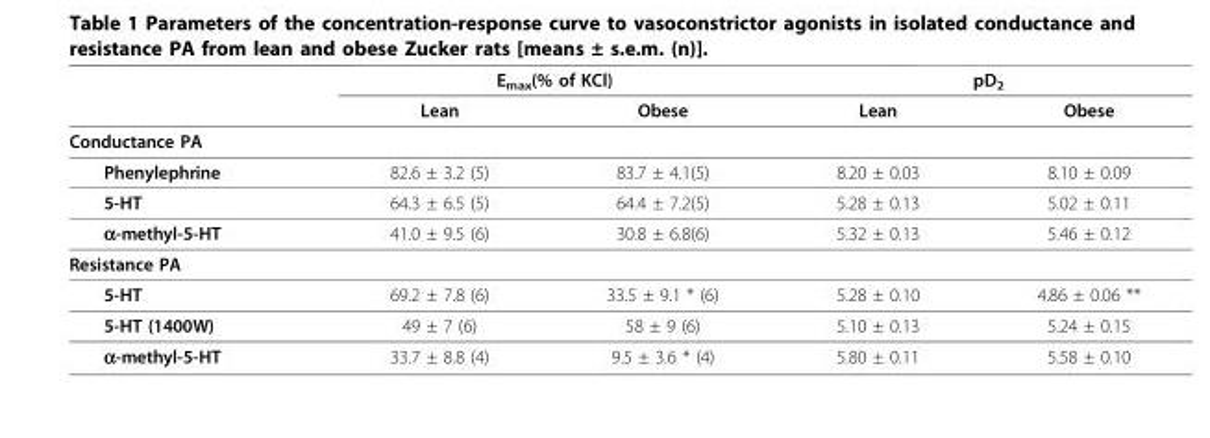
<table><thead><tr><td rowspan="2"></td><td colspan="2">E<sub>max</sub>(% of KCl)</td><td colspan="2">pD<sub>2</sub></td></tr><tr><td>Lean</td><td>Obese</td><td>Lean</td><td>Obese</td></tr></thead><tbody><tr><td colspan="5">Conductance PA</td></tr><tr><td>Phenylephrine</td><td>82.6 ± 3.2 (5)</td><td>83.7 ± 4.1(5)</td><td>8.20 ± 0.03</td><td>8.10 ± 0.09</td></tr><tr><td>5-HT</td><td>64.3 ± 6.5 (5)</td><td>64.4 ± 7.2(5)</td><td>5.28 ± 0.13</td><td>5.02 ± 0.11</td></tr><tr><td>α-methyl-5-HT</td><td>41.0 ± 9.5 (6)</td><td>30.8 ± 6.8(6)</td><td>5.32 ± 0.13</td><td>5.46 ± 0.12</td></tr><tr><td colspan="5">Resistance PA</td></tr><tr><td>5-HT</td><td>69.2 ± 7.8 (6)</td><td>33.5 ± 9.1 * (6)</td><td>5.28 ± 0.10</td><td>4.86 ± 0.06 **</td></tr><tr><td>5-HT (1400W)</td><td>49 ± 7 (6)</td><td>58 ± 9 (6)</td><td>5.10 ± 0.13</td><td>5.24 ± 0.15</td></tr><tr><td>α-methyl-5-HT</td><td>33.7 ± 8.8 (4)</td><td>9.5 ± 3.6 * (4)</td><td>5.80 ± 0.11</td><td>5.58 ± 0.10</td></tr></tbody></table>